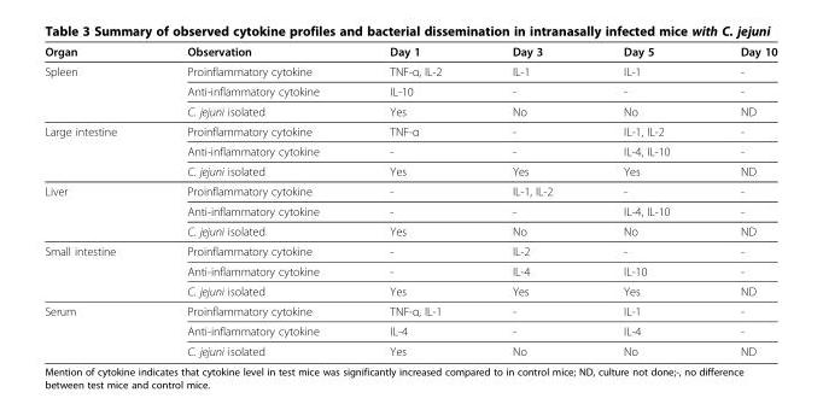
<table><thead><tr><td>Organ</td><td>Observation</td><td>Day 1</td><td>Day 3</td><td>Day 5</td><td>Day 10</td></tr></thead><tbody><tr><td rowspan="3">Spleen</td><td>Proinflammatory cytokine</td><td>TNF-α, IL-2</td><td>IL-1</td><td>IL-1</td><td>-</td></tr><tr><td>Anti-inflammatory cytokine</td><td>IL-10</td><td>-</td><td>-</td><td>-</td></tr><tr><td>C. jejuni isolated</td><td>Yes</td><td>No</td><td>No</td><td>ND</td></tr><tr><td rowspan="3">Large intestine</td><td>Proinflammatory cytokine</td><td>TNF-α</td><td>-</td><td>IL-1, IL-2</td><td>-</td></tr><tr><td>Anti-inflammatory cytokine</td><td>-</td><td>-</td><td>IL-4, IL-10</td><td>-</td></tr><tr><td>C. jejuni isolated</td><td>Yes</td><td>Yes</td><td>Yes</td><td>ND</td></tr><tr><td rowspan="3">Liver</td><td>Proinflammatory cytokine</td><td>-</td><td>IL-1, IL-2</td><td>-</td><td>-</td></tr><tr><td>Anti-inflammatory cytokine</td><td>-</td><td>-</td><td>IL-4, IL-10</td><td>-</td></tr><tr><td>C. jejuni isolated</td><td>Yes</td><td>No</td><td>No</td><td>ND</td></tr><tr><td rowspan="3">Small intestine</td><td>Proinflammatory cytokine</td><td>-</td><td>IL-2</td><td>-</td><td>-</td></tr><tr><td>Anti-inflammatory cytokine</td><td>-</td><td>IL-4</td><td>IL-10</td><td>-</td></tr><tr><td>C. jejuni isolated</td><td>Yes</td><td>Yes</td><td>Yes</td><td>ND</td></tr><tr><td rowspan="3">Serum</td><td>Proinflammatory cytokine</td><td>TNF-α, IL-1</td><td>-</td><td>IL-1</td><td>-</td></tr><tr><td>Anti-inflammatory cytokine</td><td>IL-4</td><td>-</td><td>IL-4</td><td>-</td></tr><tr><td>C. jejuni isolated</td><td>Yes</td><td>No</td><td>No</td><td>ND</td></tr></tbody></table>